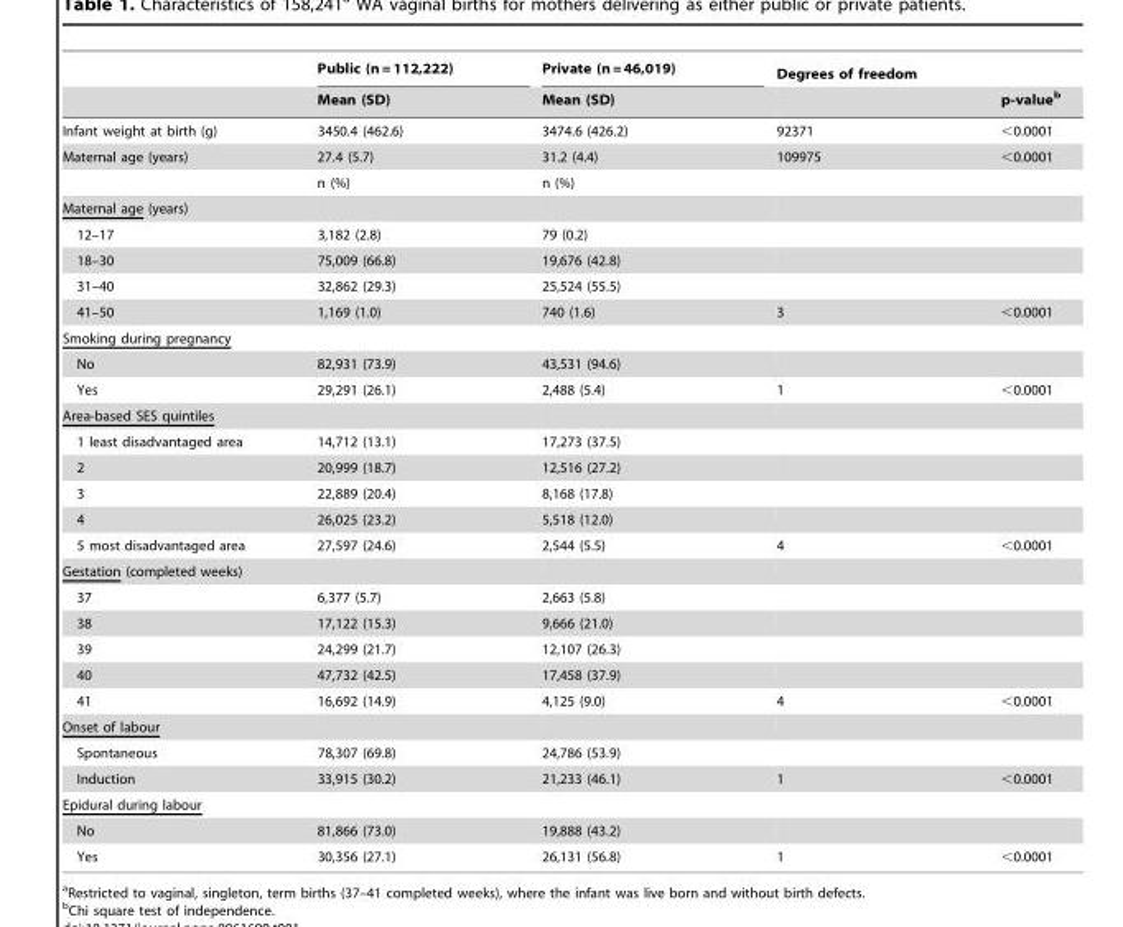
<table><thead><tr><td rowspan="2"></td><td rowspan="2">Public (n = 112,222) Mean (SD)</td><td rowspan="2">Private (n = 46,019) Mean (SD)</td><td rowspan="2">Degrees of freedom</td><td rowspan="2">p-value<sup>b</sup></td></tr><tr></tr></thead><tbody><tr><td>Infant weight at birth (g)</td><td>3450.4 (462.6)</td><td>3474.6 (426.2)</td><td>92371</td><td>&lt;0.0001</td></tr><tr><td rowspan="2">Maternal age (years)</td><td>27.4 (5.7)</td><td>31.2 (4.4)</td><td>109975</td><td>&lt;0.0001</td></tr><tr><td>n (%)</td><td>n (%)</td><td></td><td></td></tr><tr><td colspan="5">Maternal age (years)</td></tr><tr><td>12–17</td><td>3,182 (2.8)</td><td>79 (0.2)</td><td></td><td></td></tr><tr><td>18–30</td><td>75,009 (66.8)</td><td>19,676 (42.8)</td><td></td><td></td></tr><tr><td>31–40</td><td>32,862 (29.3)</td><td>25,524 (55.5)</td><td></td><td></td></tr><tr><td>41–50</td><td>1,169 (1.0)</td><td>740 (1.6)</td><td>3</td><td>&lt;0.0001</td></tr><tr><td colspan="5">Smoking during pregnancy</td></tr><tr><td>No</td><td>82,931 (73.9)</td><td>43,531 (94.6)</td><td></td><td></td></tr><tr><td>Yes</td><td>29,291 (26.1)</td><td>2,488 (5.4)</td><td>1</td><td>&lt;0.0001</td></tr><tr><td colspan="5">Area-based SES quintiles</td></tr><tr><td>1 least disadvantaged area</td><td>14,712 (13.1)</td><td>17,273 (37.5)</td><td></td><td></td></tr><tr><td>2</td><td>20,999 (18.7)</td><td>12,516 (27.2)</td><td></td><td></td></tr><tr><td>3</td><td>22,889 (20.4)</td><td>8,168 (17.8)</td><td></td><td></td></tr><tr><td>4</td><td>26,025 (23.2)</td><td>5,518 (12.0)</td><td></td><td></td></tr><tr><td>5 most disadvantaged area</td><td>27,597 (24.6)</td><td>2,544 (5.5)</td><td>4</td><td>&lt;0.0001</td></tr><tr><td colspan="5">Gestation (completed weeks)</td></tr><tr><td>37</td><td>6,377 (5.7)</td><td>2,663 (5.8)</td><td></td><td></td></tr><tr><td>38</td><td>17,122 (15.3)</td><td>9,666 (21.0)</td><td></td><td></td></tr><tr><td>39</td><td>24,299 (21.7)</td><td>12,107 (26.3)</td><td></td><td></td></tr><tr><td>40</td><td>47,732 (42.5)</td><td>17,458 (37.9)</td><td></td><td></td></tr><tr><td>41</td><td>16,692 (14.9)</td><td>4,125 (9.0)</td><td>4</td><td>&lt;0.0001</td></tr><tr><td colspan="5">Onset of labour</td></tr><tr><td>Spontaneous</td><td>78,307 (69.8)</td><td>24,786 (53.9)</td><td></td><td></td></tr><tr><td>Induction</td><td>33,915 (30.2)</td><td>21,233 (46.1)</td><td>1</td><td>&lt;0.0001</td></tr><tr><td colspan="5">Epidural during labour</td></tr><tr><td>No</td><td>81,866 (73.0)</td><td>19,888 (43.2)</td><td></td><td></td></tr><tr><td>Yes</td><td>30,356 (27.1)</td><td>26,131 (56.8)</td><td>1</td><td>&lt;0.0001</td></tr></tbody></table>